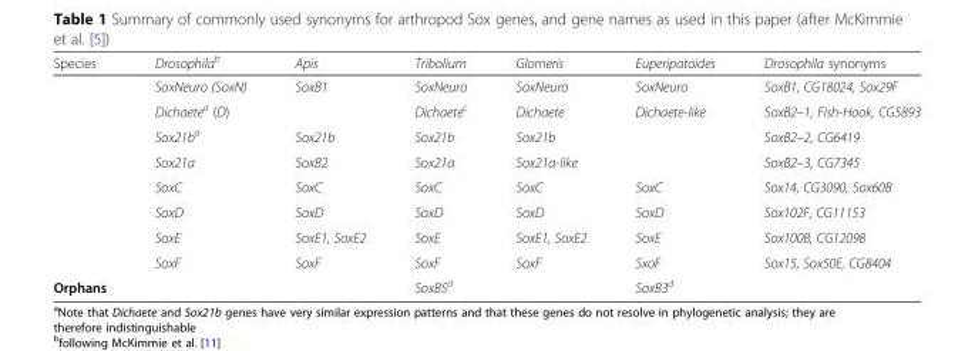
<table><thead><tr><td>Species</td><td>Drosophila<sup>b</sup></td><td>Apis</td><td>Tribolium</td><td>Glomeris</td><td>Euperipatoides</td><td>Drosophila synonyms</td></tr></thead><tbody><tr><td></td><td>SoxNeuro (SoxN)</td><td>SoxB1</td><td>SoxNeuro</td><td>SoxNeuro</td><td>SoxNeuro</td><td>SoxB1, CG18024, Sox29F</td></tr><tr><td></td><td>Dichaete<sup>a</sup> (D)</td><td></td><td>Dichaete<sup>c</sup></td><td>Dichaete</td><td>Dichaete-like</td><td>SoxB2–1, Fish-Hook, CG5893</td></tr><tr><td></td><td>Sox21b<sup>a</sup></td><td>Sox21b</td><td>Sox21b</td><td>Sox21b</td><td></td><td>SoxB2–2, CG6419</td></tr><tr><td></td><td>Sox21a</td><td>SoxB2</td><td>Sox21a</td><td>Sox21a-like</td><td></td><td>SoxB2–3, CG7345</td></tr><tr><td></td><td>SoxC</td><td>SoxC</td><td>SoxC</td><td>SoxC</td><td>SoxC</td><td>Sox14, CG3090, Sox60B</td></tr><tr><td></td><td>SoxD</td><td>SoxD</td><td>SoxD</td><td>SoxD</td><td>SoxD</td><td>Sox102F, CG11153</td></tr><tr><td></td><td>SoxE</td><td>SoxE1, SoxE2</td><td>SoxE</td><td>SoxE1, SoxE2</td><td>SoxE</td><td>Sox100B, CG12098</td></tr><tr><td></td><td>SoxF</td><td>SoxF</td><td>SoxF</td><td>SoxF</td><td>SxoF</td><td>Sox15, Sox50E, CG8404</td></tr><tr><td>Orphans</td><td></td><td></td><td>SoxB5<sup>d</sup></td><td></td><td>SoxB3<sup>d</sup></td><td></td></tr></tbody></table>